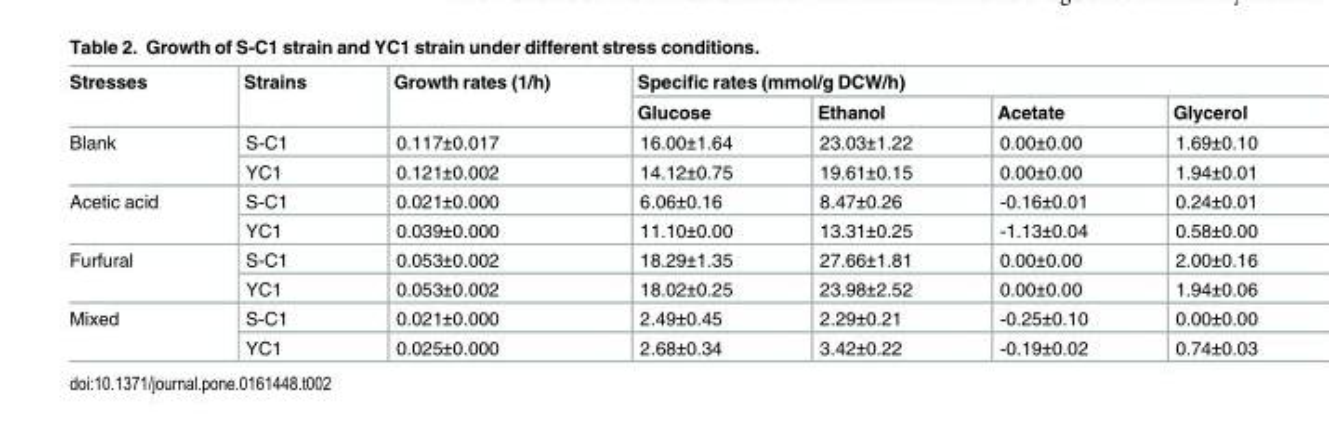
<table><thead><tr><td rowspan="2">Stresses</td><td rowspan="2">Strains</td><td rowspan="2">Growth rates (1/h)</td><td colspan="4">Specific rates (mmol/g DCW/h)</td></tr><tr><td>Glucose</td><td>Ethanol</td><td>Acetate</td><td>Glycerol</td></tr></thead><tbody><tr><td rowspan="2">Blank</td><td>S-C1</td><td>0.117±0.017</td><td>16.00±1.64</td><td>23.03±1.22</td><td>0.00±0.00</td><td>1.69±0.10</td></tr><tr><td>YC1</td><td>0.121±0.002</td><td>14.12±0.75</td><td>19.61±0.15</td><td>0.00±0.00</td><td>1.94±0.01</td></tr><tr><td rowspan="2">Acetic acid</td><td>S-C1</td><td>0.021±0.000</td><td>6.06±0.16</td><td>8.47±0.26</td><td>-0.16±0.01</td><td>0.24±0.01</td></tr><tr><td>YC1</td><td>0.039±0.000</td><td>11.10±0.00</td><td>13.31±0.25</td><td>-1.13±0.04</td><td>0.58±0.00</td></tr><tr><td rowspan="2">Furfural</td><td>S-C1</td><td>0.053±0.002</td><td>18.29±1.35</td><td>27.66±1.81</td><td>0.00±0.00</td><td>2.00±0.16</td></tr><tr><td>YC1</td><td>0.053±0.002</td><td>18.02±0.25</td><td>23.98±2.52</td><td>0.00±0.00</td><td>1.94±0.06</td></tr><tr><td rowspan="2">Mixed</td><td>S-C1</td><td>0.021±0.000</td><td>2.49±0.45</td><td>2.29±0.21</td><td>-0.25±0.10</td><td>0.00±0.00</td></tr><tr><td>YC1</td><td>0.025±0.000</td><td>2.68±0.34</td><td>3.42±0.22</td><td>-0.19±0.02</td><td>0.74±0.03</td></tr></tbody></table>